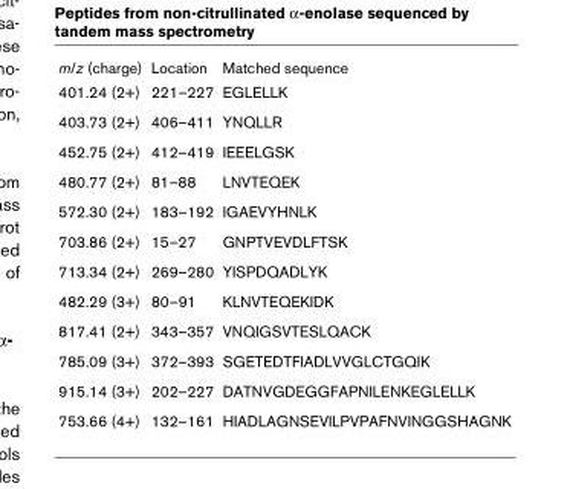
<table><tbody><tr><td>m/z (charge)</td><td>Location</td><td>Matched sequence</td></tr><tr><td>401.24 (2+)</td><td>221–227</td><td>EGLELLK</td></tr><tr><td>403.73 (2+)</td><td>406–411</td><td>YNQLLR</td></tr><tr><td>452.75 (2+)</td><td>412–419</td><td>IEEELGSK</td></tr><tr><td>480.77 (2+)</td><td>81–88</td><td>LNVTEQEK</td></tr><tr><td>572.30 (2+)</td><td>183–192</td><td>IGAEVYHNLK</td></tr><tr><td>703.86 (2+)</td><td>15–27</td><td>GNPTVEVDLFTSK</td></tr><tr><td>713.34 (2+)</td><td>269–280</td><td>YISPDQADLYK</td></tr><tr><td>482.29 (3+)</td><td>80–91</td><td>KLNVTEQEKIDK</td></tr><tr><td>817.41 (2+)</td><td>343–357</td><td>VNQIGSVTESLQACK</td></tr><tr><td>785.09 (3+)</td><td>372–393</td><td>SGETEDTFIADLVVGLCTGQIK</td></tr><tr><td>915.14 (3+)</td><td>202–227</td><td>DATNVGDEGGFAPNILENKEGLELLK</td></tr><tr><td>753.66 (4+)</td><td>132–161</td><td>HIADLAGNSEVILPVPAFNVINGGSHAGNK</td></tr></tbody></table>